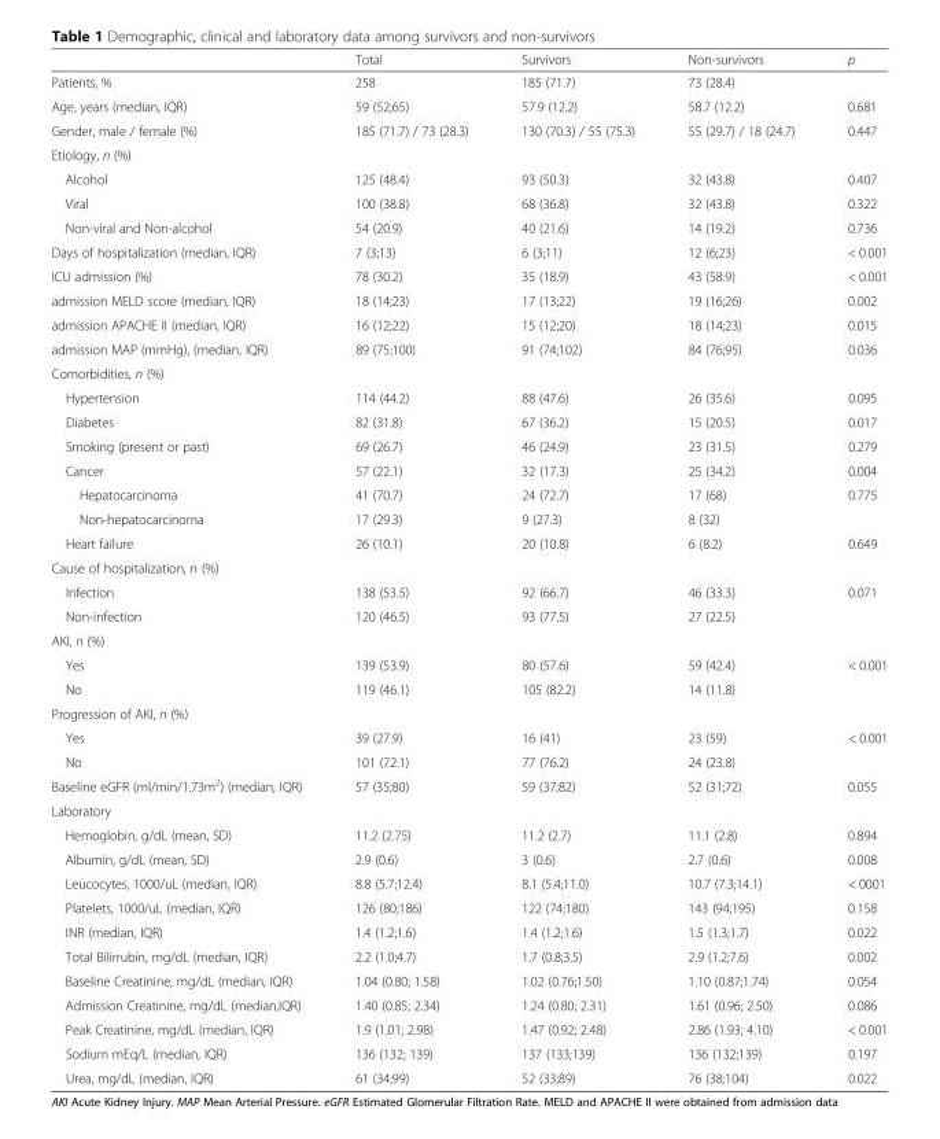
<table><thead><tr><td></td><td>Total</td><td>Survivors</td><td>Non-survivors</td><td>p</td></tr></thead><tbody><tr><td>Patients, %</td><td>258</td><td>185 (71.7)</td><td>73 (28.4)</td><td></td></tr><tr><td>Age, years (median, IQR)</td><td>59 (52;65)</td><td>57.9 (12.2)</td><td>58.7 (12.2)</td><td>0.681</td></tr><tr><td>Gender, male / female (%)</td><td>185 (71.7) / 73 (28.3)</td><td>130 (70.3) / 55 (75.3)</td><td>55 (29.7) / 18 (24.7)</td><td>0.447</td></tr><tr><td colspan="5">Etiology, n (%)</td></tr><tr><td>Alcohol</td><td>125 (48.4)</td><td>93 (50.3)</td><td>32 (43.8)</td><td>0.407</td></tr><tr><td>Viral</td><td>100 (38.8)</td><td>68 (36.8)</td><td>32 (43.8)</td><td>0.322</td></tr><tr><td>Non-viral and Non-alcohol</td><td>54 (20.9)</td><td>40 (21.6)</td><td>14 (19.2)</td><td>0.736</td></tr><tr><td>Days of hospitalization (median, IQR)</td><td>7 (3;13)</td><td>6 (3;11)</td><td>12 (6;23)</td><td>&lt; 0.001</td></tr><tr><td>ICU admission (%)</td><td>78 (30.2)</td><td>35 (18.9)</td><td>43 (58.9)</td><td>&lt; 0.001</td></tr><tr><td>admission MELD score (median, IQR)</td><td>18 (14;23)</td><td>17 (13;22)</td><td>19 (16;26)</td><td>0.002</td></tr><tr><td>admission APACHE II (median, IQR)</td><td>16 (12;22)</td><td>15 (12;20)</td><td>18 (14;23)</td><td>0.015</td></tr><tr><td>admission MAP (mmHg), (median, IQR)</td><td>89 (75;100)</td><td>91 (74;102)</td><td>84 (76;95)</td><td>0.036</td></tr><tr><td colspan="5">Comorbidities, n (%)</td></tr><tr><td>Hypertension</td><td>114 (44.2)</td><td>88 (47.6)</td><td>26 (35.6)</td><td>0.095</td></tr><tr><td>Diabetes</td><td>82 (31.8)</td><td>67 (36.2)</td><td>15 (20.5)</td><td>0.017</td></tr><tr><td>Smoking (present or past)</td><td>69 (26.7)</td><td>46 (24.9)</td><td>23 (31.5)</td><td>0.279</td></tr><tr><td>Cancer</td><td>57 (22.1)</td><td>32 (17.3)</td><td>25 (34.2)</td><td>0.004</td></tr><tr><td>Hepatocarcinoma</td><td>41 (70.7)</td><td>24 (72.7)</td><td>17 (68)</td><td>0.775</td></tr><tr><td>Non-hepatocarcinoma</td><td>17 (29.3)</td><td>9 (27.3)</td><td>8 (32)</td><td></td></tr><tr><td>Heart failure</td><td>26 (10.1)</td><td>20 (10.8)</td><td>6 (8.2)</td><td>0.649</td></tr><tr><td colspan="5">Cause of hospitalization, n (%)</td></tr><tr><td>Infection</td><td>138 (53.5)</td><td>92 (66.7)</td><td>46 (33.3)</td><td>0.071</td></tr><tr><td>Non-infection</td><td>120 (46.5)</td><td>93 (77.5)</td><td>27 (22.5)</td><td></td></tr><tr><td colspan="5">AKI, n (%)</td></tr><tr><td>Yes</td><td>139 (53.9)</td><td>80 (57.6)</td><td>59 (42.4)</td><td>&lt; 0.001</td></tr><tr><td>No</td><td>119 (46.1)</td><td>105 (82.2)</td><td>14 (11.8)</td><td></td></tr><tr><td colspan="5">Progression of AKI, n (%)</td></tr><tr><td>Yes</td><td>39 (27.9)</td><td>16 (41)</td><td>23 (59)</td><td>&lt; 0.001</td></tr><tr><td>No</td><td>101 (72.1)</td><td>77 (76.2)</td><td>24 (23.8)</td><td></td></tr><tr><td>Baseline eGFR (ml/min/1.73m<sup>2</sup>) (median, IQR)</td><td>57 (35;80)</td><td>59 (37;82)</td><td>52 (31;72)</td><td>0.055</td></tr><tr><td colspan="5">Laboratory</td></tr><tr><td>Hemoglobin, g/dL (mean, SD)</td><td>11.2 (2.75)</td><td>11.2 (2.7)</td><td>11.1 (2.8)</td><td>0.894</td></tr><tr><td>Albumin, g/dL (mean, SD)</td><td>2.9 (0.6)</td><td>3 (0.6)</td><td>2.7 (0.6)</td><td>0.008</td></tr><tr><td>Leucocytes, 1000/uL (median, IQR)</td><td>8.8 (5.7;12.4)</td><td>8.1 (5.4;11.0)</td><td>10.7 (7.3;14.1)</td><td>&lt; 0001</td></tr><tr><td>Platelets, 1000/uL (median, IQR)</td><td>126 (80;186)</td><td>122 (74;180)</td><td>143 (94;195)</td><td>0.158</td></tr><tr><td>INR (median, IQR)</td><td>1.4 (1.2;1.6)</td><td>1.4 (1.2;1.6)</td><td>1.5 (1.3;1.7)</td><td>0.022</td></tr><tr><td>Total Bilirrubin, mg/dL (median, IQR)</td><td>2.2 (1.0;4.7)</td><td>1.7 (0.8;3.5)</td><td>2.9 (1.2;7.6)</td><td>0.002</td></tr><tr><td>Baseline Creatinine, mg/dL (median, IQR)</td><td>1.04 (0.80; 1.58)</td><td>1.02 (0.76;1.50)</td><td>1.10 (0.87;1.74)</td><td>0.054</td></tr><tr><td>Admission Creatinine, mg/dL (median,IQR)</td><td>1.40 (0.85; 2.34)</td><td>1.24 (0.80; 2.31)</td><td>1.61 (0.96; 2.50)</td><td>0.086</td></tr><tr><td>Peak Creatinine, mg/dL (median, IQR)</td><td>1.9 (1.01; 2.98)</td><td>1.47 (0.92; 2.48)</td><td>2.86 (1.93; 4.10)</td><td>&lt; 0.001</td></tr><tr><td>Sodium mEq/L (median, IQR)</td><td>136 (132; 139)</td><td>137 (133;139)</td><td>136 (132;139)</td><td>0.197</td></tr><tr><td>Urea, mg/dL (median, IQR)</td><td>61 (34;99)</td><td>52 (33;89)</td><td>76 (38;104)</td><td>0.022</td></tr></tbody></table>